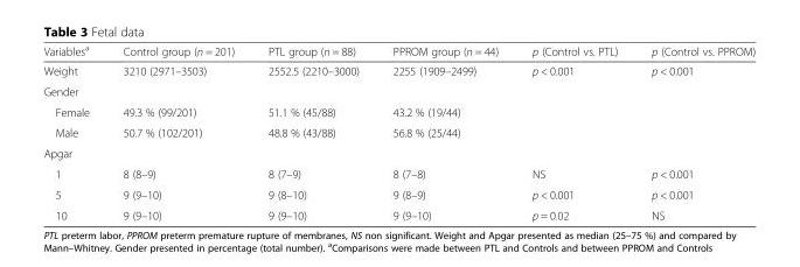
<table><thead><tr><td>Variables<sup>a</sup></td><td>Control group (n = 201)</td><td>PTL group (n = 88)</td><td>PPROM group (n = 44)</td><td>p (Control vs. PTL)</td><td>p (Control vs. PPROM)</td></tr></thead><tbody><tr><td>Weight</td><td>3210 (2971–3503)</td><td>2552.5 (2210–3000)</td><td>2255 (1909–2499)</td><td>p &lt; 0.001</td><td>p &lt; 0.001</td></tr><tr><td colspan="6">Gender</td></tr><tr><td>Female</td><td>49.3 % (99/201)</td><td>51.1 % (45/88)</td><td>43.2 % (19/44)</td><td></td><td></td></tr><tr><td>Male</td><td>50.7 % (102/201)</td><td>48.8 % (43/88)</td><td>56.8 % (25/44)</td><td></td><td></td></tr><tr><td colspan="6">Apgar</td></tr><tr><td>1</td><td>8 (8–9)</td><td>8 (7–9)</td><td>8 (7–8)</td><td>NS</td><td>p &lt; 0.001</td></tr><tr><td>5</td><td>9 (9–10)</td><td>9 (8–10)</td><td>9 (8–9)</td><td>p &lt; 0.001</td><td>p &lt; 0.001</td></tr><tr><td>10</td><td>9 (9–10)</td><td>9 (9–10)</td><td>9 (9–10)</td><td>p = 0.02</td><td>NS</td></tr></tbody></table>